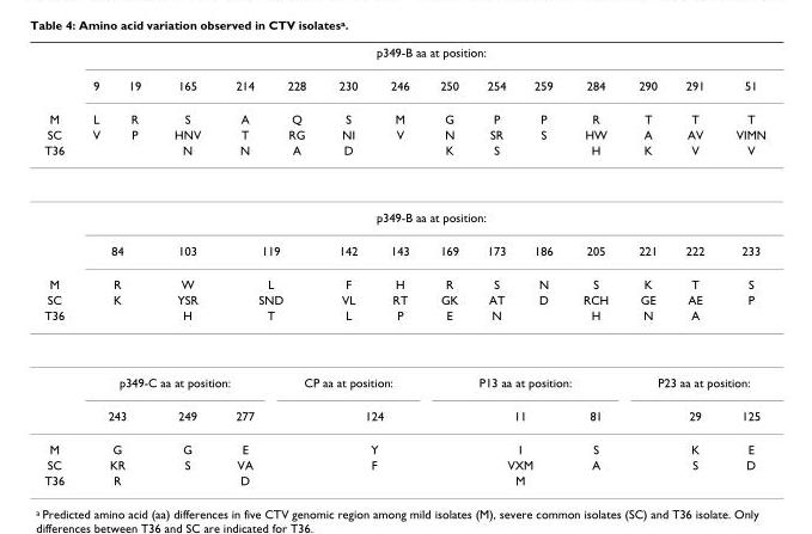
<table><thead><tr><td rowspan="5">M SC T36</td><td colspan="14">p349-B aa at position:</td></tr><tr><td rowspan="4">9 L V</td><td rowspan="4">19 R P</td><td rowspan="4">165 S HNV N</td><td rowspan="4">214 A T N</td><td rowspan="4">228 Q RG A</td><td rowspan="4">230 S NI D</td><td rowspan="4">246 M V</td><td rowspan="4">250 G N K</td><td rowspan="4">254 P SR S</td><td rowspan="4">259 P S</td><td rowspan="4">284 R HW H</td><td rowspan="4">290 T A K</td><td rowspan="4">291 T AV V</td><td rowspan="4">51 T VIMN V</td></tr><tr></tr><tr></tr><tr></tr></thead><tbody><tr><td></td><td colspan="14">p349-B aa at position:</td></tr><tr><td></td><td colspan="2">84</td><td>103</td><td colspan="2">119</td><td>142</td><td>143</td><td>169</td><td>173</td><td>186</td><td>205</td><td>221</td><td>222</td><td>233</td></tr><tr><td>M</td><td colspan="2">R</td><td>W</td><td colspan="2">L</td><td>F</td><td>H</td><td>R</td><td>S</td><td>N</td><td>S</td><td>K</td><td>T</td><td>S</td></tr><tr><td>SC</td><td colspan="2">K</td><td>YSR</td><td colspan="2">SND</td><td>VL</td><td>RT</td><td>GK</td><td>AT</td><td>D</td><td>RCH</td><td>GE</td><td>AE</td><td>P</td></tr><tr><td rowspan="3">T36</td><td></td><td></td><td>H</td><td colspan="2">T</td><td>L</td><td>P</td><td>E</td><td>N</td><td></td><td>H</td><td>N</td><td>A</td><td></td></tr><tr><td colspan="4">p349-C aa at position:</td><td colspan="3">CP aa at position:</td><td colspan="4">P13 aa at position:</td><td colspan="3">P23 aa at position:</td></tr><tr><td colspan="2">243</td><td>249</td><td>277</td><td></td><td colspan="2">124</td><td></td><td colspan="2">11</td><td>81</td><td></td><td>29</td><td>125</td></tr><tr><td>M</td><td colspan="2">G</td><td>G</td><td>E</td><td></td><td colspan="2">Y</td><td></td><td colspan="2">I</td><td>S</td><td></td><td>K</td><td>E</td></tr><tr><td>SC</td><td colspan="2">KR</td><td>S</td><td>VA</td><td></td><td colspan="2">F</td><td></td><td colspan="2">VXM</td><td>A</td><td></td><td>S</td><td>D</td></tr><tr><td>T36</td><td colspan="2">R</td><td></td><td>D</td><td></td><td></td><td></td><td></td><td colspan="2">M</td><td></td><td></td><td></td><td></td></tr></tbody></table>